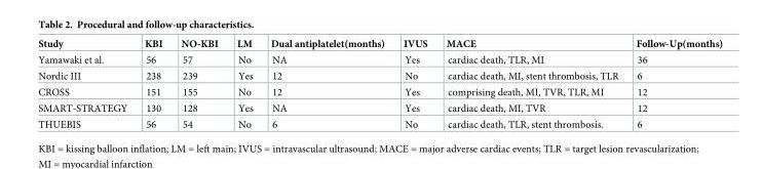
<table><thead><tr><td>Study</td><td>KBI</td><td>NO-KBI</td><td>LM</td><td>Dual antiplatelet(months)</td><td>IVUS</td><td>MACE</td><td>Follow-Up(months)</td></tr></thead><tbody><tr><td>Yamawaki et al.</td><td>56</td><td>57</td><td>No</td><td>NA</td><td>Yes</td><td>cardiac death, TLR, MI</td><td>36</td></tr><tr><td>Nordic III</td><td>238</td><td>239</td><td>Yes</td><td>12</td><td>No</td><td>cardiac death, MI, stent thrombosis, TLR</td><td>6</td></tr><tr><td>CROSS</td><td>151</td><td>155</td><td>No</td><td>12</td><td>Yes</td><td>comprising death, MI, TVR, TLR, MI</td><td>12</td></tr><tr><td>SMART-STRATEGY</td><td>130</td><td>128</td><td>Yes</td><td>NA</td><td>Yes</td><td>cardiac death, MI, TVR</td><td>12</td></tr><tr><td>THUEBIS</td><td>56</td><td>54</td><td>No</td><td>6</td><td>No</td><td>cardiac death, TLR, stent thrombosis.</td><td>6</td></tr></tbody></table>